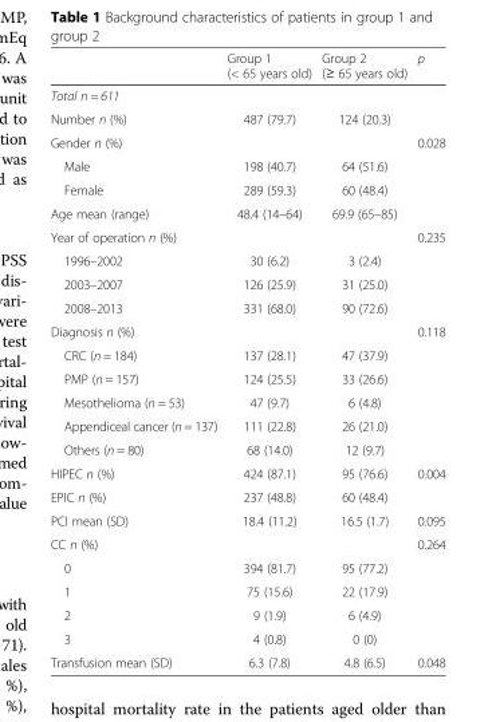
<table><thead><tr><td></td><td>Group 1 (&lt; 65 years old)</td><td>Group 2 (≥ 65 years old)</td><td>p</td></tr></thead><tbody><tr><td colspan="4">Total n = 611</td></tr><tr><td>Number n (%)</td><td>487 (79.7)</td><td>124 (20.3)</td><td></td></tr><tr><td>Gender n (%)</td><td></td><td></td><td>0.028</td></tr><tr><td>Male</td><td>198 (40.7)</td><td>64 (51.6)</td><td rowspan="2"></td></tr><tr><td>Female</td><td>289 (59.3)</td><td>60 (48.4)</td></tr><tr><td>Age mean (range)</td><td>48.4 (14–64)</td><td>69.9 (65–85)</td><td></td></tr><tr><td>Year of operation n (%)</td><td></td><td></td><td>0.235</td></tr><tr><td>1996–2002</td><td>30 (6.2)</td><td>3 (2.4)</td><td></td></tr><tr><td>2003–2007</td><td>126 (25.9)</td><td>31 (25.0)</td><td></td></tr><tr><td>2008–2013</td><td>331 (68.0)</td><td>90 (72.6)</td><td></td></tr><tr><td>Diagnosis n (%)</td><td></td><td></td><td>0.118</td></tr><tr><td>CRC (n = 184)</td><td>137 (28.1)</td><td>47 (37.9)</td><td></td></tr><tr><td>PMP (n = 157)</td><td>124 (25.5)</td><td>33 (26.6)</td><td></td></tr><tr><td>Mesothelioma (n = 53)</td><td>47 (9.7)</td><td>6 (4.8)</td><td></td></tr><tr><td>Appendiceal cancer (n = 137)</td><td>111 (22.8)</td><td>26 (21.0)</td><td></td></tr><tr><td>Others (n = 80)</td><td>68 (14.0)</td><td>12 (9.7)</td><td></td></tr><tr><td>HIPEC n (%)</td><td>424 (87.1)</td><td>95 (76.6)</td><td>0.004</td></tr><tr><td>EPIC n (%)</td><td>237 (48.8)</td><td>60 (48.4)</td><td></td></tr><tr><td>PCI mean (SD)</td><td>18.4 (11.2)</td><td>16.5 (1.7)</td><td>0.095</td></tr><tr><td>CC n (%)</td><td></td><td></td><td>0.264</td></tr><tr><td>0</td><td>394 (81.7)</td><td>95 (77.2)</td><td></td></tr><tr><td>1</td><td>75 (15.6)</td><td>22 (17.9)</td><td></td></tr><tr><td>2</td><td>9 (1.9)</td><td>6 (4.9)</td><td></td></tr><tr><td>3</td><td>4 (0.8)</td><td>0 (0)</td><td></td></tr><tr><td>Transfusion mean (SD)</td><td>6.3 (7.8)</td><td>4.8 (6.5)</td><td>0.048</td></tr></tbody></table>